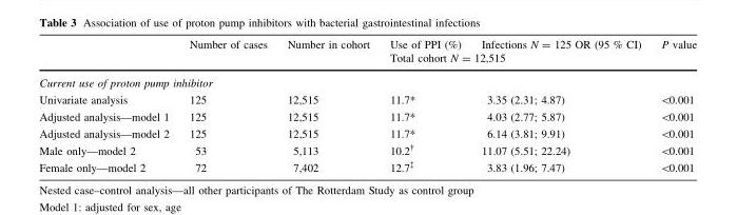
<table><thead><tr><td rowspan="2"></td><td rowspan="2">Number of cases</td><td rowspan="2">Number in cohort</td><td>Use of PPI (%)</td><td>Infections N = 125 OR (95 % CI)</td><td>P value</td></tr><tr><td colspan="3">Total cohort N = 12,515</td></tr></thead><tbody><tr><td colspan="6">Current use of proton pump inhibitor</td></tr><tr><td>Univariate analysis</td><td>125</td><td>12,515</td><td>11.7*</td><td>3.35 (2.31; 4.87)</td><td>&lt;0.001</td></tr><tr><td>Adjusted analysis—model 1</td><td>125</td><td>12,515</td><td>11.7*</td><td>4.03 (2.77; 5.87)</td><td>&lt;0.001</td></tr><tr><td>Adjusted analysis—model 2</td><td>125</td><td>12,515</td><td>11.7*</td><td>6.14 (3.81; 9.91)</td><td>&lt;0.001</td></tr><tr><td>Male only—model 2</td><td>53</td><td>5,113</td><td>10.2<sup>†</sup></td><td>11.07 (5.51; 22.24)</td><td>&lt;0.001</td></tr><tr><td>Female only—model 2</td><td>72</td><td>7,402</td><td>12.7<sup>‡</sup></td><td>3.83 (1.96; 7.47)</td><td>&lt;0.001</td></tr></tbody></table>